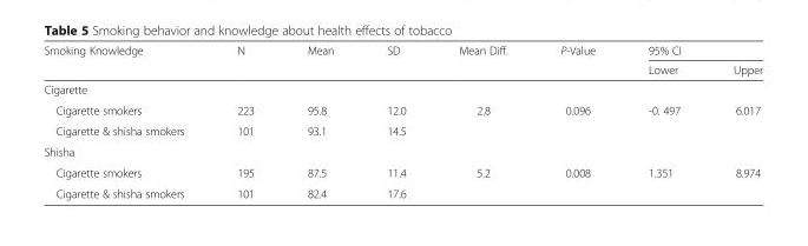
<table><thead><tr><td rowspan="2">Smoking Knowledge</td><td rowspan="2">N</td><td rowspan="2">Mean</td><td rowspan="2">SD</td><td rowspan="2">Mean Diff.</td><td rowspan="2">P-Value</td><td colspan="2">95% CI</td></tr><tr><td>Lower</td><td>Upper</td></tr></thead><tbody><tr><td colspan="8">Cigarette</td></tr><tr><td>Cigarette smokers</td><td>223</td><td>95.8</td><td>12.0</td><td rowspan="2">2.8</td><td rowspan="2">0.096</td><td rowspan="2">-0. 497</td><td rowspan="2">6.017</td></tr><tr><td>Cigarette &amp; shisha smokers</td><td>101</td><td>93.1</td><td>14.5</td></tr><tr><td colspan="8">Shisha</td></tr><tr><td>Cigarette smokers</td><td>195</td><td>87.5</td><td>11.4</td><td rowspan="2">5.2</td><td rowspan="2">0.008</td><td rowspan="2">1.351</td><td rowspan="2">8.974</td></tr><tr><td>Cigarette &amp; shisha smokers</td><td>101</td><td>82.4</td><td>17.6</td></tr></tbody></table>